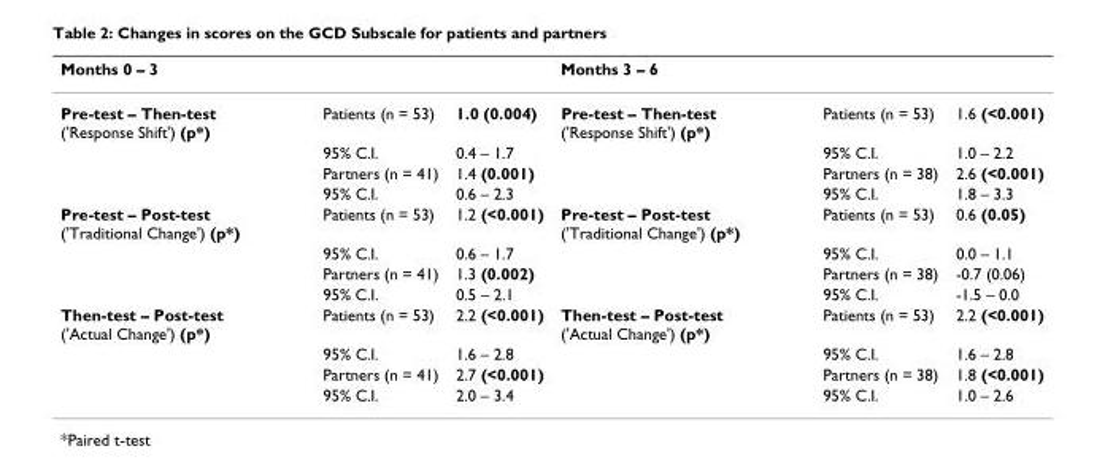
<table><thead><tr><td>Months 0 – 3</td><td></td><td></td><td>Months 3 – 6</td><td></td><td></td></tr></thead><tbody><tr><td rowspan="4">Pre-test – Then-test (&#x27;Response Shift&#x27;) (p*)</td><td>Patients (n = 53)</td><td>1.0 (0.004)</td><td>Pre-test – Then-test (&#x27;Response Shift&#x27;) (p*)</td><td>Patients (n = 53)</td><td>1.6 (&lt;0.001)</td></tr><tr><td>95% C.I.</td><td>0.4 – 1.7</td><td></td><td>95% C.I.</td><td>1.0 – 2.2</td></tr><tr><td>Partners (n = 41)</td><td>1.4 (0.001)</td><td></td><td>Partners (n = 38)</td><td>2.6 (&lt;0.001)</td></tr><tr><td>95% C.I.</td><td>0.6 – 2.3</td><td></td><td>95% C.I.</td><td>1.8 – 3.3</td></tr><tr><td rowspan="4">Pre-test – Post-test (&#x27;Traditional Change&#x27;) (p*)</td><td>Patients (n = 53)</td><td>1.2 (&lt;0.001)</td><td>Pre-test – Post-test (&#x27;Traditional Change&#x27;) (p*)</td><td>Patients (n = 53)</td><td>0.6 (0.05)</td></tr><tr><td>95% C.I.</td><td>0.6 – 1.7</td><td></td><td>95% C.I.</td><td>0.0 – 1.1</td></tr><tr><td>Partners (n = 41)</td><td>1.3 (0.002)</td><td></td><td>Partners (n = 38)</td><td>-0.7 (0.06)</td></tr><tr><td>95% C.I.</td><td>0.5 – 2.1</td><td></td><td>95% C.I.</td><td>-1.5 – 0.0</td></tr><tr><td rowspan="4">Then-test – Post-test (&#x27;Actual Change&#x27;) (p*)</td><td>Patients (n = 53)</td><td>2.2 (&lt;0.001)</td><td>Then-test – Post-test (&#x27;Actual Change&#x27;) (p*)</td><td>Patients (n = 53)</td><td>2.2 (&lt;0.001)</td></tr><tr><td>95% C.I.</td><td>1.6 – 2.8</td><td></td><td>95% C.I.</td><td>1.6 – 2.8</td></tr><tr><td>Partners (n = 41)</td><td>2.7 (&lt;0.001)</td><td></td><td>Partners (n = 38)</td><td>1.8 (&lt;0.001)</td></tr><tr><td>95% C.I.</td><td>2.0 – 3.4</td><td></td><td>95% C.I.</td><td>1.0 – 2.6</td></tr></tbody></table>